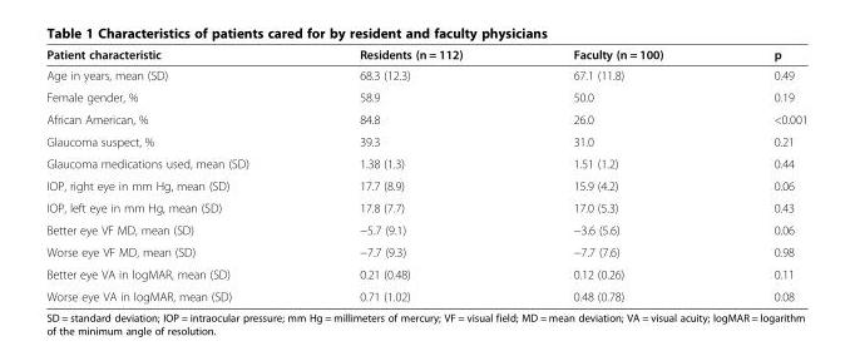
<table><thead><tr><td>Patient characteristic</td><td>Residents (n = 112)</td><td>Faculty (n = 100)</td><td>p</td></tr></thead><tbody><tr><td>Age in years, mean (SD)</td><td>68.3 (12.3)</td><td>67.1 (11.8)</td><td>0.49</td></tr><tr><td>Female gender, %</td><td>58.9</td><td>50.0</td><td>0.19</td></tr><tr><td>African American, %</td><td>84.8</td><td>26.0</td><td>&lt;0.001</td></tr><tr><td>Glaucoma suspect, %</td><td>39.3</td><td>31.0</td><td>0.21</td></tr><tr><td>Glaucoma medications used, mean (SD)</td><td>1.38 (1.3)</td><td>1.51 (1.2)</td><td>0.44</td></tr><tr><td>IOP, right eye in mm Hg, mean (SD)</td><td>17.7 (8.9)</td><td>15.9 (4.2)</td><td>0.06</td></tr><tr><td>IOP, left eye in mm Hg, mean (SD)</td><td>17.8 (7.7)</td><td>17.0 (5.3)</td><td>0.43</td></tr><tr><td>Better eye VF MD, mean (SD)</td><td>−5.7 (9.1)</td><td>−3.6 (5.6)</td><td>0.06</td></tr><tr><td>Worse eye VF MD, mean (SD)</td><td>−7.7 (9.3)</td><td>−7.7 (7.6)</td><td>0.98</td></tr><tr><td>Better eye VA in logMAR, mean (SD)</td><td>0.21 (0.48)</td><td>0.12 (0.26)</td><td>0.11</td></tr><tr><td>Worse eye VA in logMAR, mean (SD)</td><td>0.71 (1.02)</td><td>0.48 (0.78)</td><td>0.08</td></tr></tbody></table>